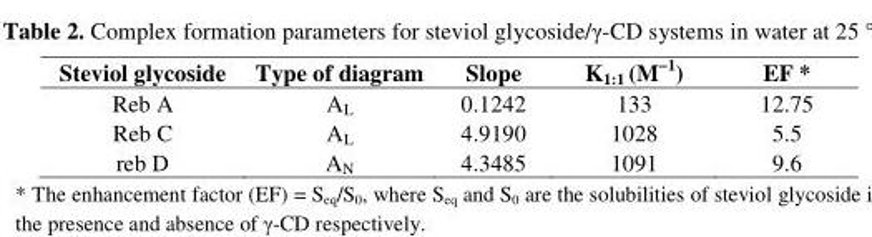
<table><thead><tr><td>Steviol glycoside</td><td>Type of diagram</td><td>Slope</td><td>K<sub>1:1</sub> (M<sup>−1</sup>)</td><td>EF *</td></tr></thead><tbody><tr><td>Reb A</td><td>A<sub>L</sub></td><td>0.1242</td><td>133</td><td>12.75</td></tr><tr><td>Reb C</td><td>A<sub>L</sub></td><td>4.9190</td><td>1028</td><td>5.5</td></tr><tr><td>reb D</td><td>A<sub>N</sub></td><td>4.3485</td><td>1091</td><td>9.6</td></tr></tbody></table>